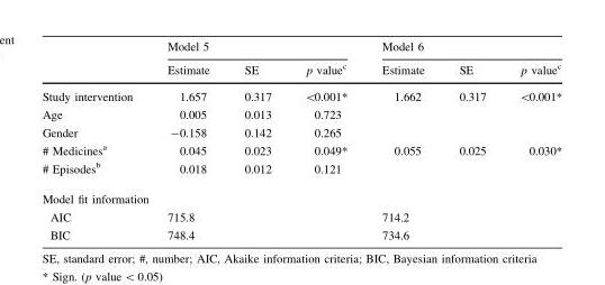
<table><thead><tr><td rowspan="2"></td><td colspan="3">Model 5</td><td colspan="3">Model 6</td></tr><tr><td>Estimate</td><td>SE</td><td>p value<sup>c</sup></td><td>Estimate</td><td>SE</td><td>p value<sup>c</sup></td></tr></thead><tbody><tr><td>Study intervention</td><td>1.657</td><td>0.317</td><td>&lt;0.001*</td><td>1.662</td><td>0.317</td><td>&lt;0.001*</td></tr><tr><td>Age</td><td>0.005</td><td>0.013</td><td>0.723</td><td></td><td></td><td></td></tr><tr><td>Gender</td><td>-0.158</td><td>0.142</td><td>0.265</td><td></td><td></td><td></td></tr><tr><td># Medicines<sup>a</sup></td><td>0.045</td><td>0.023</td><td>0.049*</td><td>0.055</td><td>0.025</td><td>0.030*</td></tr><tr><td># Episodes<sup>b</sup></td><td>0.018</td><td>0.012</td><td>0.121</td><td></td><td></td><td></td></tr><tr><td colspan="7">Model fit information</td></tr><tr><td>AIC</td><td>715.8</td><td></td><td></td><td>714.2</td><td></td><td></td></tr><tr><td>BIC</td><td>748.4</td><td></td><td></td><td>734.6</td><td></td><td></td></tr></tbody></table>